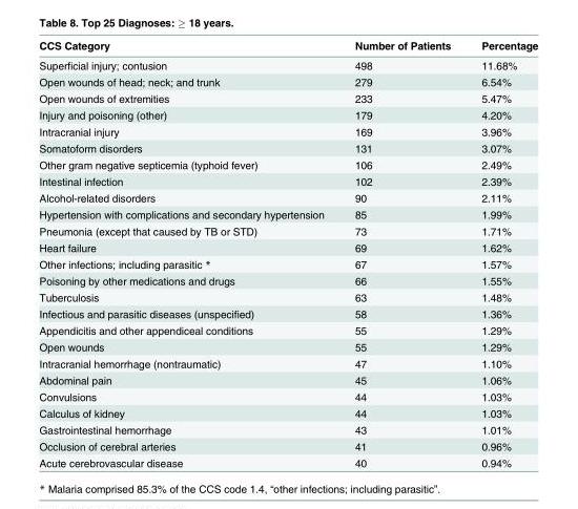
<table><thead><tr><td>CCS Category</td><td>Number of Patients</td><td>Percentage</td></tr></thead><tbody><tr><td>Superficial injury; contusion</td><td>498</td><td>11.68%</td></tr><tr><td>Open wounds of head; neck; and trunk</td><td>279</td><td>6.54%</td></tr><tr><td>Open wounds of extremities</td><td>233</td><td>5.47%</td></tr><tr><td>Injury and poisoning (other)</td><td>179</td><td>4.20%</td></tr><tr><td>Intracranial injury</td><td>169</td><td>3.96%</td></tr><tr><td>Somatoform disorders</td><td>131</td><td>3.07%</td></tr><tr><td>Other gram negative septicemia (typhoid fever)</td><td>106</td><td>2.49%</td></tr><tr><td>Intestinal infection</td><td>102</td><td>2.39%</td></tr><tr><td>Alcohol-related disorders</td><td>90</td><td>2.11%</td></tr><tr><td>Hypertension with complications and secondary hypertension</td><td>85</td><td>1.99%</td></tr><tr><td>Pneumonia (except that caused by TB or STD)</td><td>73</td><td>1.71%</td></tr><tr><td>Heart failure</td><td>69</td><td>1.62%</td></tr><tr><td>Other infections; including parasitic *</td><td>67</td><td>1.57%</td></tr><tr><td>Poisoning by other medications and drugs</td><td>66</td><td>1.55%</td></tr><tr><td>Tuberculosis</td><td>63</td><td>1.48%</td></tr><tr><td>Infectious and parasitic diseases (unspecified)</td><td>58</td><td>1.36%</td></tr><tr><td>Appendicitis and other appendiceal conditions</td><td>55</td><td>1.29%</td></tr><tr><td>Open wounds</td><td>55</td><td>1.29%</td></tr><tr><td>Intracranial hemorrhage (nontraumatic)</td><td>47</td><td>1.10%</td></tr><tr><td>Abdominal pain</td><td>45</td><td>1.06%</td></tr><tr><td>Convulsions</td><td>44</td><td>1.03%</td></tr><tr><td>Calculus of kidney</td><td>44</td><td>1.03%</td></tr><tr><td>Gastrointestinal hemorrhage</td><td>43</td><td>1.01%</td></tr><tr><td>Occlusion of cerebral arteries</td><td>41</td><td>0.96%</td></tr><tr><td>Acute cerebrovascular disease</td><td>40</td><td>0.94%</td></tr></tbody></table>